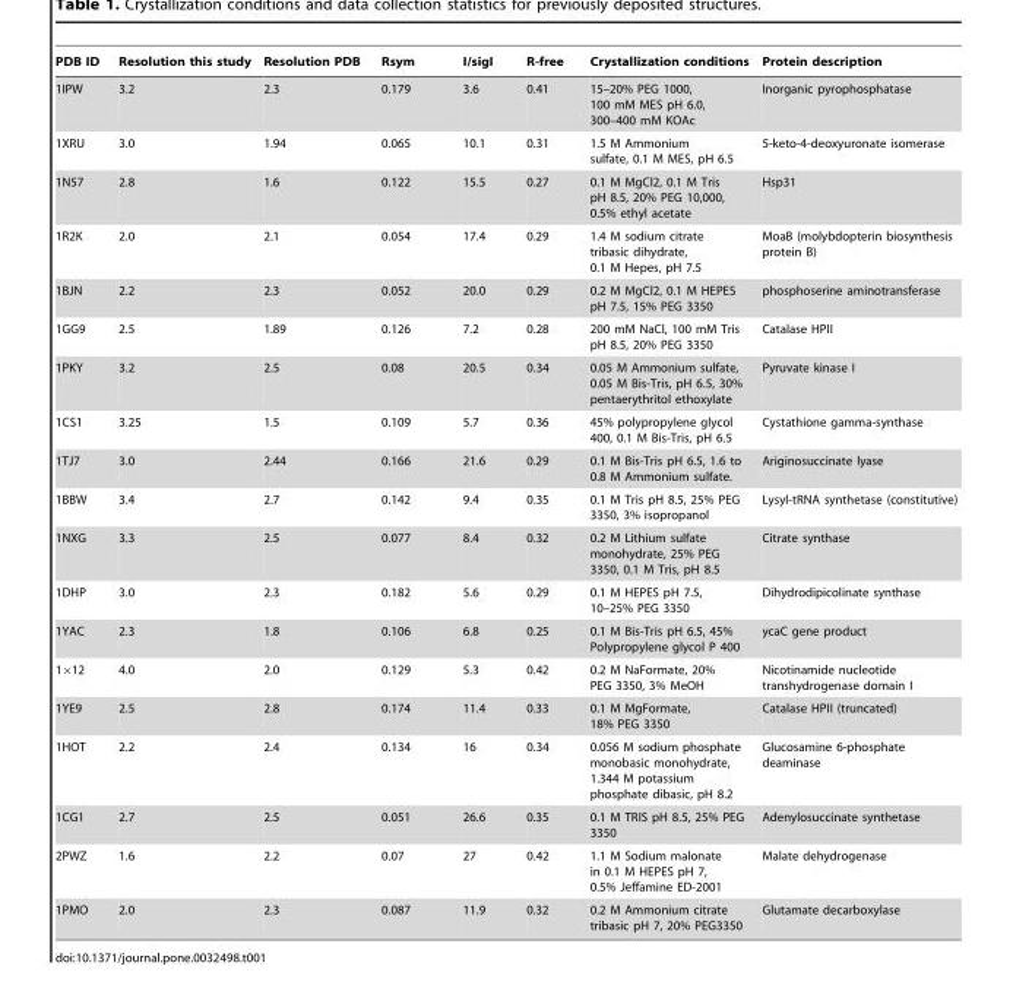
<table><thead><tr><td>PDB ID</td><td>Resolution this study</td><td>Resolution PDB</td><td>Rsym</td><td>I/sigI</td><td>R-free</td><td>Crystallization conditions</td><td>Protein description</td></tr></thead><tbody><tr><td>1IPW</td><td>3.2</td><td>2.3</td><td>0.179</td><td>3.6</td><td>0.41</td><td>15–20% PEG 1000, 100 mM MES pH 6.0, 300–400 mM KOAc</td><td>Inorganic pyrophosphatase</td></tr><tr><td>1XRU</td><td>3.0</td><td>1.94</td><td>0.065</td><td>10.1</td><td>0.31</td><td>1.5 M Ammonium sulfate, 0.1 M MES, pH 6.5</td><td>5-keto-4-deoxyuronate isomerase</td></tr><tr><td>1N57</td><td>2.8</td><td>1.6</td><td>0.122</td><td>15.5</td><td>0.27</td><td>0.1 M MgCl2, 0.1 M Tris pH 8.5, 20% PEG 10,000, 0.5% ethyl acetate</td><td>Hsp31</td></tr><tr><td>1R2K</td><td>2.0</td><td>2.1</td><td>0.054</td><td>17.4</td><td>0.29</td><td>1.4 M sodium citrate tribasic dihydrate, 0.1 M Hepes, pH 7.5</td><td>MoaB (molybdopterin biosynthesis protein B)</td></tr><tr><td>1BJN</td><td>2.2</td><td>2.3</td><td>0.052</td><td>20.0</td><td>0.29</td><td>0.2 M MgCl2, 0.1 M HEPES pH 7.5, 15% PEG 3350</td><td>phosphoserine aminotransferase</td></tr><tr><td>1GG9</td><td>2.5</td><td>1.89</td><td>0.126</td><td>7.2</td><td>0.28</td><td>200 mM NaCl, 100 mM Tris pH 8.5, 20% PEG 3350</td><td>Catalase HPII</td></tr><tr><td>1PKY</td><td>3.2</td><td>2.5</td><td>0.08</td><td>20.5</td><td>0.34</td><td>0.05 M Ammonium sulfate, 0.05 M Bis-Tris, pH 6.5, 30% pentaerythritol ethoxylate</td><td>Pyruvate kinase I</td></tr><tr><td>1CS1</td><td>3.25</td><td>1.5</td><td>0.109</td><td>5.7</td><td>0.36</td><td>45% polypropylene glycol 400, 0.1 M Bis-Tris, pH 6.5</td><td>Cystathione gamma-synthase</td></tr><tr><td>1TJ7</td><td>3.0</td><td>2.44</td><td>0.166</td><td>21.6</td><td>0.29</td><td>0.1 M Bis-Tris pH 6.5, 1.6 to 0.8 M Ammonium sulfate.</td><td>Ariginosuccinate lyase</td></tr><tr><td>1BBW</td><td>3.4</td><td>2.7</td><td>0.142</td><td>9.4</td><td>0.35</td><td>0.1 M Tris pH 8.5, 25% PEG 3350, 3% isopropanol</td><td>Lysyl-tRNA synthetase (constitutive)</td></tr><tr><td>1NXG</td><td>3.3</td><td>2.5</td><td>0.077</td><td>8.4</td><td>0.32</td><td>0.2 M Lithium sulfate monohydrate, 25% PEG 3350, 0.1 M Tris, pH 8.5</td><td>Citrate synthase</td></tr><tr><td>1DHP</td><td>3.0</td><td>2.3</td><td>0.182</td><td>5.6</td><td>0.29</td><td>0.1 M HEPES pH 7.5, 10–25% PEG 3350</td><td>Dihydrodipicolinate synthase</td></tr><tr><td>1YAC</td><td>2.3</td><td>1.8</td><td>0.106</td><td>6.8</td><td>0.25</td><td>0.1 M Bis-Tris pH 6.5, 45% Polypropylene glycol P 400</td><td>ycaC gene product</td></tr><tr><td>1×12</td><td>4.0</td><td>2.0</td><td>0.129</td><td>5.3</td><td>0.42</td><td>0.2 M NaFormate, 20% PEG 3350, 3% MeOH</td><td>Nicotinamide nucleotide transhydrogenase domain I</td></tr><tr><td>1YE9</td><td>2.5</td><td>2.8</td><td>0.174</td><td>11.4</td><td>0.33</td><td>0.1 M MgFormate, 18% PEG 3350</td><td>Catalase HPII (truncated)</td></tr><tr><td>1HOT</td><td>2.2</td><td>2.4</td><td>0.134</td><td>16</td><td>0.34</td><td>0.056 M sodium phosphate monobasic monohydrate, 1.344 M potassium phosphate dibasic, pH 8.2</td><td>Glucosamine 6-phosphate deaminase</td></tr><tr><td>1CG1</td><td>2.7</td><td>2.5</td><td>0.051</td><td>26.6</td><td>0.35</td><td>0.1 M TRIS pH 8.5, 25% PEG 3350</td><td>Adenylosuccinate synthetase</td></tr><tr><td>2PWZ</td><td>1.6</td><td>2.2</td><td>0.07</td><td>27</td><td>0.42</td><td>1.1 M Sodium malonate in 0.1 M HEPES pH 7, 0.5% Jeffamine ED-2001</td><td>Malate dehydrogenase</td></tr><tr><td>1PMO</td><td>2.0</td><td>2.3</td><td>0.087</td><td>11.9</td><td>0.32</td><td>0.2 M Ammonium citrate tribasic pH 7, 20% PEG3350</td><td>Glutamate decarboxylase</td></tr></tbody></table>